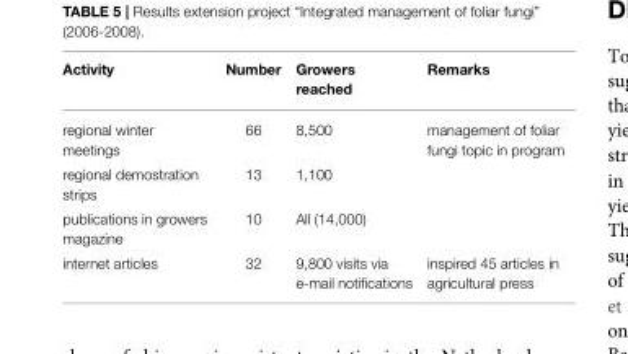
<table><thead><tr><td>Activity</td><td>Number</td><td>Growers reached</td><td>Remarks</td></tr></thead><tbody><tr><td>regional winter meetings</td><td>66</td><td>8,500</td><td>management of foliar fungi topic in program</td></tr><tr><td>regional demostration strips</td><td>13</td><td>1,100</td><td></td></tr><tr><td>publications in growers magazine</td><td>10</td><td>All (14,000)</td><td></td></tr><tr><td>internet articles</td><td>32</td><td>9,800 visits via e-mail notifications</td><td>inspired 45 articles in agricultural press</td></tr></tbody></table>